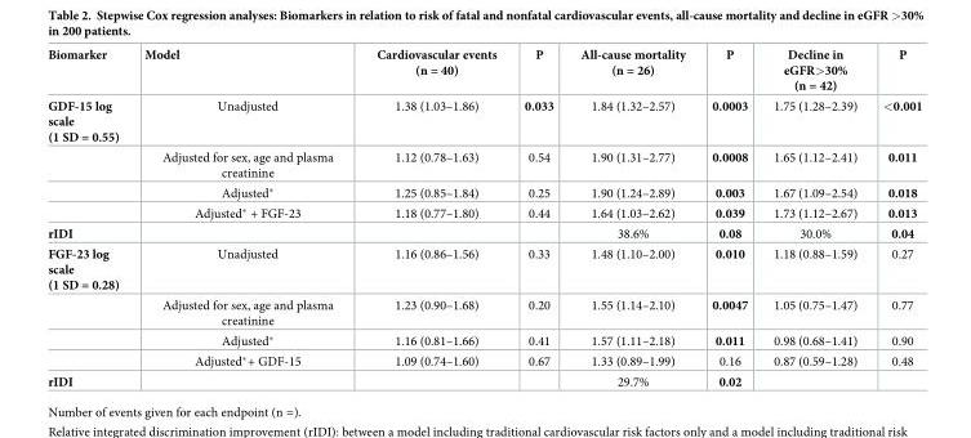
<table><thead><tr><td>Biomarker</td><td>Model</td><td>Cardiovascular events (n = 40)</td><td>P</td><td>All-cause mortality (n = 26)</td><td>P</td><td>Decline in eGFR&gt;30% (n = 42)</td><td>P</td></tr></thead><tbody><tr><td rowspan="4">GDF-15 log scale (1 SD = 0.55)</td><td>Unadjusted</td><td>1.38 (1.03–1.86)</td><td>0.033</td><td>1.84 (1.32–2.57)</td><td>0.0003</td><td>1.75 (1.28–2.39)</td><td>&lt;0.001</td></tr><tr><td>Adjusted for sex, age and plasma creatinine</td><td>1.12 (0.78–1.63)</td><td>0.54</td><td>1.90 (1.31–2.77)</td><td>0.0008</td><td>1.65 (1.12–2.41)</td><td>0.011</td></tr><tr><td>Adjusted*</td><td>1.25 (0.85–1.84)</td><td>0.25</td><td>1.90 (1.24–2.89)</td><td>0.003</td><td>1.67 (1.09–2.54)</td><td>0.018</td></tr><tr><td>Adjusted* + FGF-23</td><td>1.18 (0.77–1.80)</td><td>0.44</td><td>1.64 (1.03–2.62)</td><td>0.039</td><td>1.73 (1.12–2.67)</td><td>0.013</td></tr><tr><td>rIDI</td><td></td><td></td><td></td><td>38.6%</td><td>0.08</td><td>30.0%</td><td>0.04</td></tr><tr><td rowspan="4">FGF-23 log scale (1 SD = 0.28)</td><td>Unadjusted</td><td>1.16 (0.86–1.56)</td><td>0.33</td><td>1.48 (1.10–2.00)</td><td>0.010</td><td>1.18 (0.88–1.59)</td><td>0.27</td></tr><tr><td>Adjusted for sex, age and plasma creatinine</td><td>1.23 (0.90–1.68)</td><td>0.20</td><td>1.55 (1.14–2.10)</td><td>0.0047</td><td>1.05 (0.75–1.47)</td><td>0.77</td></tr><tr><td>Adjusted*</td><td>1.16 (0.81–1.66)</td><td>0.41</td><td>1.57 (1.11–2.18)</td><td>0.011</td><td>0.98 (0.68–1.41)</td><td>0.90</td></tr><tr><td>Adjusted*+ GDF-15</td><td>1.09 (0.74–1.60)</td><td>0.67</td><td>1.33 (0.89–1.99)</td><td>0.16</td><td>0.87 (0.59–1.28)</td><td>0.48</td></tr><tr><td>rIDI</td><td></td><td></td><td></td><td>29.7%</td><td>0.02</td><td></td><td></td></tr></tbody></table>